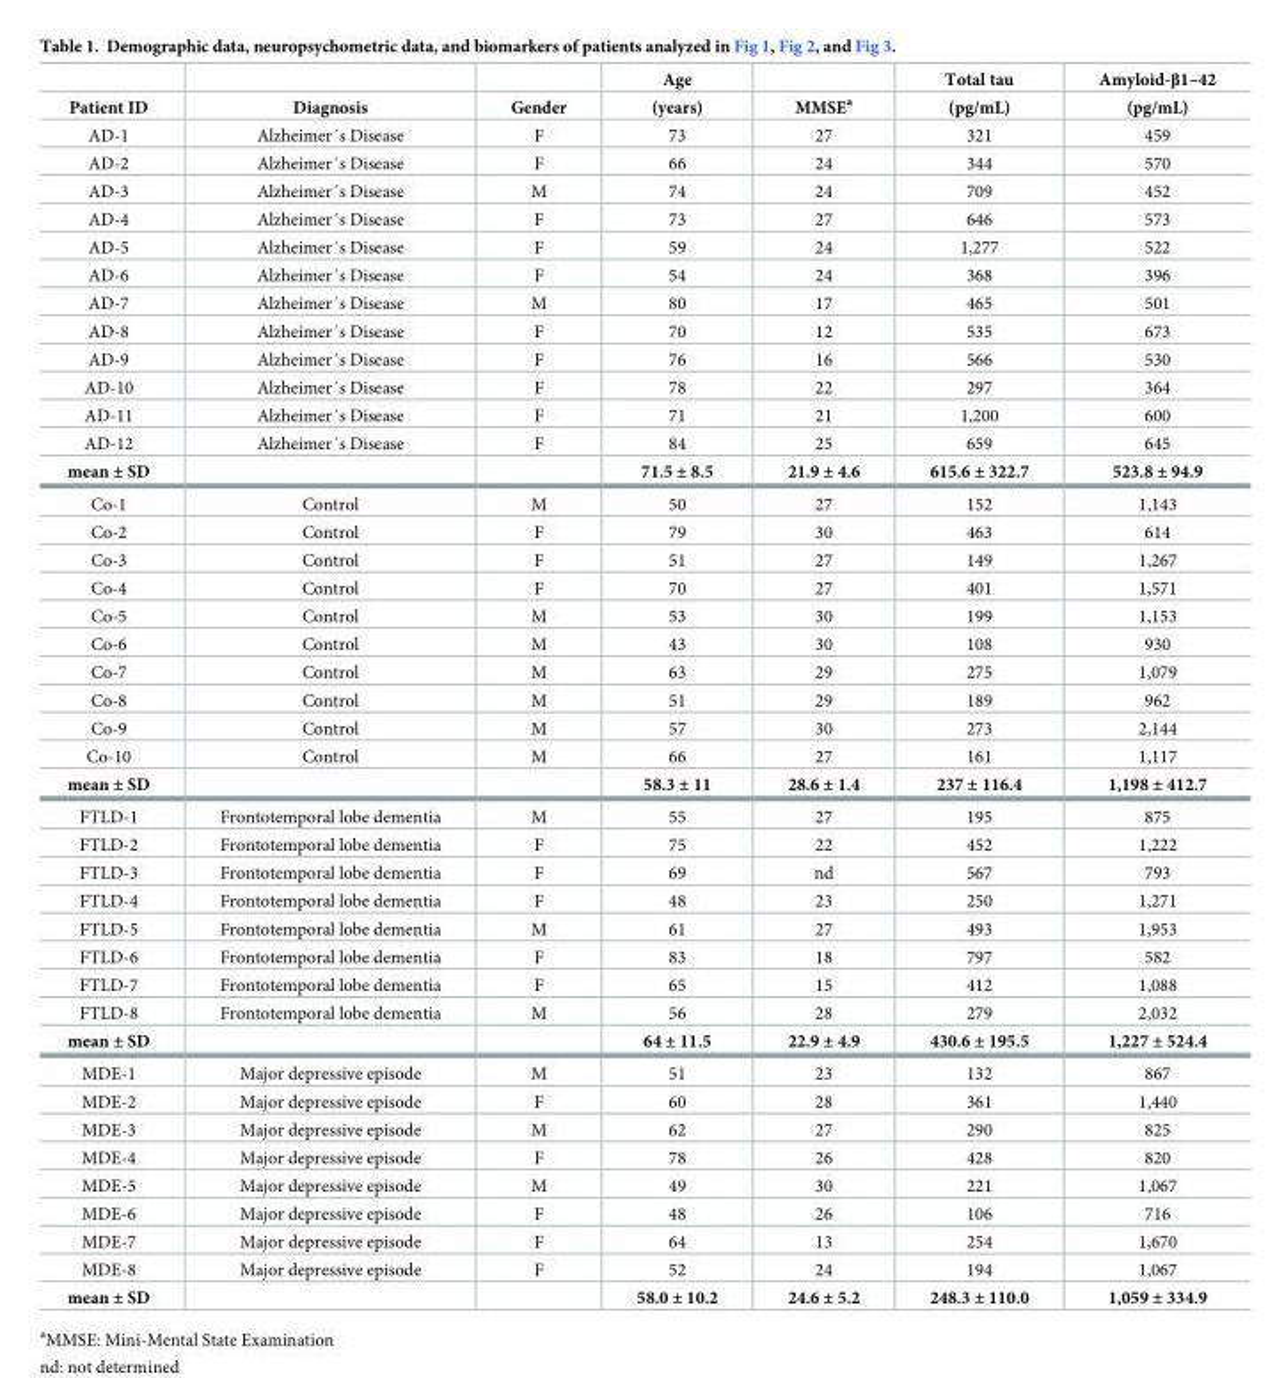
<table><thead><tr><td rowspan="2">Patient ID</td><td rowspan="2">Diagnosis</td><td rowspan="2">Gender</td><td rowspan="2">Age (years)</td><td rowspan="2">MMSE<sup>a</sup></td><td rowspan="2">Total tau (pg/mL)</td><td rowspan="2">Amyloid-β1–42 (pg/mL)</td></tr><tr></tr></thead><tbody><tr><td>AD-1</td><td>Alzheimer´s Disease</td><td>F</td><td>73</td><td>27</td><td>321</td><td>459</td></tr><tr><td>AD-2</td><td>Alzheimer´s Disease</td><td>F</td><td>66</td><td>24</td><td>344</td><td>570</td></tr><tr><td>AD-3</td><td>Alzheimer´s Disease</td><td>M</td><td>74</td><td>24</td><td>709</td><td>452</td></tr><tr><td>AD-4</td><td>Alzheimer´s Disease</td><td>F</td><td>73</td><td>27</td><td>646</td><td>573</td></tr><tr><td>AD-5</td><td>Alzheimer´s Disease</td><td>F</td><td>59</td><td>24</td><td>1,277</td><td>522</td></tr><tr><td>AD-6</td><td>Alzheimer´s Disease</td><td>F</td><td>54</td><td>24</td><td>368</td><td>396</td></tr><tr><td>AD-7</td><td>Alzheimer´s Disease</td><td>M</td><td>80</td><td>17</td><td>465</td><td>501</td></tr><tr><td>AD-8</td><td>Alzheimer´s Disease</td><td>F</td><td>70</td><td>12</td><td>535</td><td>673</td></tr><tr><td>AD-9</td><td>Alzheimer´s Disease</td><td>F</td><td>76</td><td>16</td><td>566</td><td>530</td></tr><tr><td>AD-10</td><td>Alzheimer´s Disease</td><td>F</td><td>78</td><td>22</td><td>297</td><td>364</td></tr><tr><td>AD-11</td><td>Alzheimer´s Disease</td><td>F</td><td>71</td><td>21</td><td>1,200</td><td>600</td></tr><tr><td>AD-12</td><td>Alzheimer´s Disease</td><td>F</td><td>84</td><td>25</td><td>659</td><td>645</td></tr><tr><td>mean ± SD</td><td></td><td></td><td>71.5 ± 8.5</td><td>21.9 ± 4.6</td><td>615.6 ± 322.7</td><td>523.8 ± 94.9</td></tr><tr><td>Co-1</td><td>Control</td><td>M</td><td>50</td><td>27</td><td>152</td><td>1,143</td></tr><tr><td>Co-2</td><td>Control</td><td>F</td><td>79</td><td>30</td><td>463</td><td>614</td></tr><tr><td>Co-3</td><td>Control</td><td>F</td><td>51</td><td>27</td><td>149</td><td>1,267</td></tr><tr><td>Co-4</td><td>Control</td><td>F</td><td>70</td><td>27</td><td>401</td><td>1,571</td></tr><tr><td>Co-5</td><td>Control</td><td>M</td><td>53</td><td>30</td><td>199</td><td>1,153</td></tr><tr><td>Co-6</td><td>Control</td><td>M</td><td>43</td><td>30</td><td>108</td><td>930</td></tr><tr><td>Co-7</td><td>Control</td><td>M</td><td>63</td><td>29</td><td>275</td><td>1,079</td></tr><tr><td>Co-8</td><td>Control</td><td>M</td><td>51</td><td>29</td><td>189</td><td>962</td></tr><tr><td>Co-9</td><td>Control</td><td>M</td><td>57</td><td>30</td><td>273</td><td>2,144</td></tr><tr><td>Co-10</td><td>Control</td><td>M</td><td>66</td><td>27</td><td>161</td><td>1,117</td></tr><tr><td>mean ± SD</td><td></td><td></td><td>58.3 ± 11</td><td>28.6 ± 1.4</td><td>237 ± 116.4</td><td>1,198 ± 412.7</td></tr><tr><td>FTLD-1</td><td>Frontotemporal lobe dementia</td><td>M</td><td>55</td><td>27</td><td>195</td><td>875</td></tr><tr><td>FTLD-2</td><td>Frontotemporal lobe dementia</td><td>F</td><td>75</td><td>22</td><td>452</td><td>1,222</td></tr><tr><td>FTLD-3</td><td>Frontotemporal lobe dementia</td><td>F</td><td>69</td><td>nd</td><td>567</td><td>793</td></tr><tr><td>FTLD-4</td><td>Frontotemporal lobe dementia</td><td>F</td><td>48</td><td>23</td><td>250</td><td>1,271</td></tr><tr><td>FTLD-5</td><td>Frontotemporal lobe dementia</td><td>M</td><td>61</td><td>27</td><td>493</td><td>1,953</td></tr><tr><td>FTLD-6</td><td>Frontotemporal lobe dementia</td><td>F</td><td>83</td><td>18</td><td>797</td><td>582</td></tr><tr><td>FTLD-7</td><td>Frontotemporal lobe dementia</td><td>F</td><td>65</td><td>15</td><td>412</td><td>1,088</td></tr><tr><td>FTLD-8</td><td>Frontotemporal lobe dementia</td><td>M</td><td>56</td><td>28</td><td>279</td><td>2,032</td></tr><tr><td>mean ± SD</td><td></td><td></td><td>64 ± 11.5</td><td>22.9 ± 4.9</td><td>430.6 ± 195.5</td><td>1,227 ± 524.4</td></tr><tr><td>MDE-1</td><td>Major depressive episode</td><td>M</td><td>51</td><td>23</td><td>132</td><td>867</td></tr><tr><td>MDE-2</td><td>Major depressive episode</td><td>F</td><td>60</td><td>28</td><td>361</td><td>1,440</td></tr><tr><td>MDE-3</td><td>Major depressive episode</td><td>M</td><td>62</td><td>27</td><td>290</td><td>825</td></tr><tr><td>MDE-4</td><td>Major depressive episode</td><td>F</td><td>78</td><td>26</td><td>428</td><td>820</td></tr><tr><td>MDE-5</td><td>Major depressive episode</td><td>M</td><td>49</td><td>30</td><td>221</td><td>1,067</td></tr><tr><td>MDE-6</td><td>Major depressive episode</td><td>F</td><td>48</td><td>26</td><td>106</td><td>716</td></tr><tr><td>MDE-7</td><td>Major depressive episode</td><td>F</td><td>64</td><td>13</td><td>254</td><td>1,670</td></tr><tr><td>MDE-8</td><td>Major depressive episode</td><td>F</td><td>52</td><td>24</td><td>194</td><td>1,067</td></tr><tr><td>mean ± SD</td><td></td><td></td><td>58.0 ± 10.2</td><td>24.6 ± 5.2</td><td>248.3 ± 110.0</td><td>1,059 ± 334.9</td></tr></tbody></table>